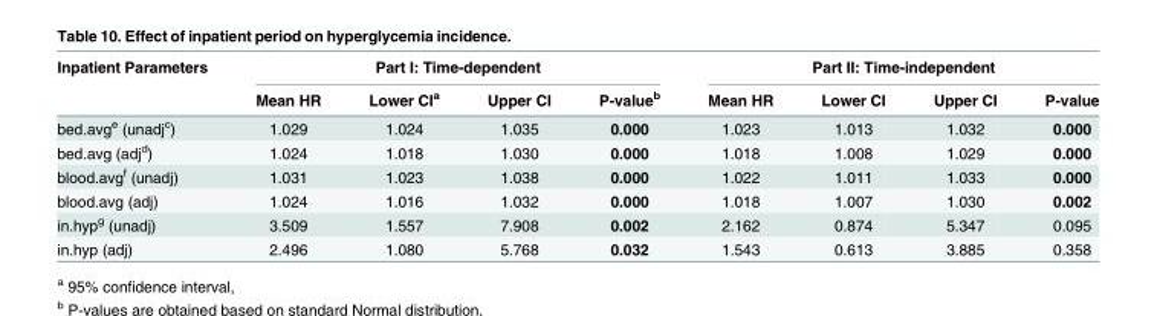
<table><thead><tr><td rowspan="2">Inpatient Parameters</td><td colspan="4">Part I: Time-dependent</td><td colspan="4">Part II: Time-independent</td></tr><tr><td>Mean HR</td><td>Lower CI<sup>a</sup></td><td>Upper CI</td><td>P-value<sup>b</sup></td><td>Mean HR</td><td>Lower CI</td><td>Upper CI</td><td>P-value</td></tr></thead><tbody><tr><td>bed.avg<sup>e</sup> (unadj<sup>c</sup>)</td><td>1.029</td><td>1.024</td><td>1.035</td><td>0.000</td><td>1.023</td><td>1.013</td><td>1.032</td><td>0.000</td></tr><tr><td>bed.avg (adj<sup>d</sup>)</td><td>1.024</td><td>1.018</td><td>1.030</td><td>0.000</td><td>1.018</td><td>1.008</td><td>1.029</td><td>0.000</td></tr><tr><td>blood.avg<sup>f</sup> (unadj)</td><td>1.031</td><td>1.023</td><td>1.038</td><td>0.000</td><td>1.022</td><td>1.011</td><td>1.033</td><td>0.000</td></tr><tr><td>blood.avg (adj)</td><td>1.024</td><td>1.016</td><td>1.032</td><td>0.000</td><td>1.018</td><td>1.007</td><td>1.030</td><td>0.002</td></tr><tr><td>in.hyp<sup>g</sup> (unadj)</td><td>3.509</td><td>1.557</td><td>7.908</td><td>0.002</td><td>2.162</td><td>0.874</td><td>5.347</td><td>0.095</td></tr><tr><td>in.hyp (adj)</td><td>2.496</td><td>1.080</td><td>5.768</td><td>0.032</td><td>1.543</td><td>0.613</td><td>3.885</td><td>0.358</td></tr></tbody></table>